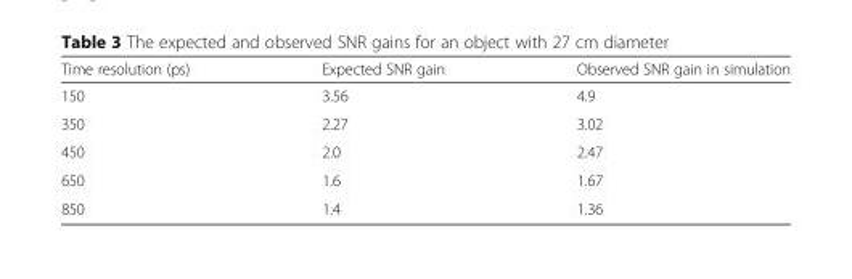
<table><thead><tr><td>Time resolution (ps)</td><td>Expected SNR gain</td><td>Observed SNR gain in simulation</td></tr></thead><tbody><tr><td>150</td><td>3.56</td><td>4.9</td></tr><tr><td>350</td><td>2.27</td><td>3.02</td></tr><tr><td>450</td><td>2.0</td><td>2.47</td></tr><tr><td>650</td><td>1.6</td><td>1.67</td></tr><tr><td>850</td><td>1.4</td><td>1.36</td></tr></tbody></table>